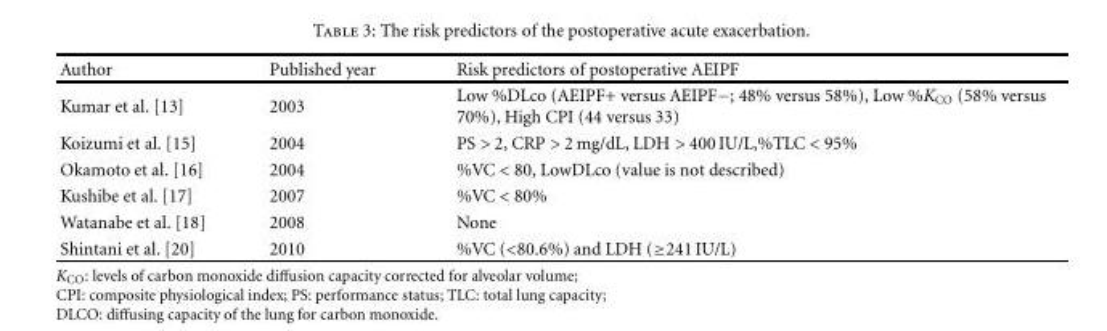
<table><thead><tr><td>Author</td><td>Published year</td><td>Risk predictors of postoperative AEIPF</td></tr></thead><tbody><tr><td>Kumar et al. [13]</td><td>2003</td><td>Low %DLco (AEIPF+ versus AEIPF−; 48% versus 58%), Low %K<sub>CO</sub> (58% versus 70%), High CPI (44 versus 33)</td></tr><tr><td>Koizumi et al. [15]</td><td>2004</td><td>PS &gt; 2, CRP &gt; 2 mg/dL, LDH &gt; 400 IU/L,%TLC &lt; 95%</td></tr><tr><td>Okamoto et al. [16]</td><td>2004</td><td>%VC &lt; 80, LowDLco (value is not described)</td></tr><tr><td>Kushibe et al. [17]</td><td>2007</td><td>%VC &lt; 80%</td></tr><tr><td>Watanabe et al. [18]</td><td>2008</td><td>None</td></tr><tr><td>Shintani et al. [20]</td><td>2010</td><td>%VC (&lt;80.6%) and LDH (≥241 IU/L)</td></tr></tbody></table>